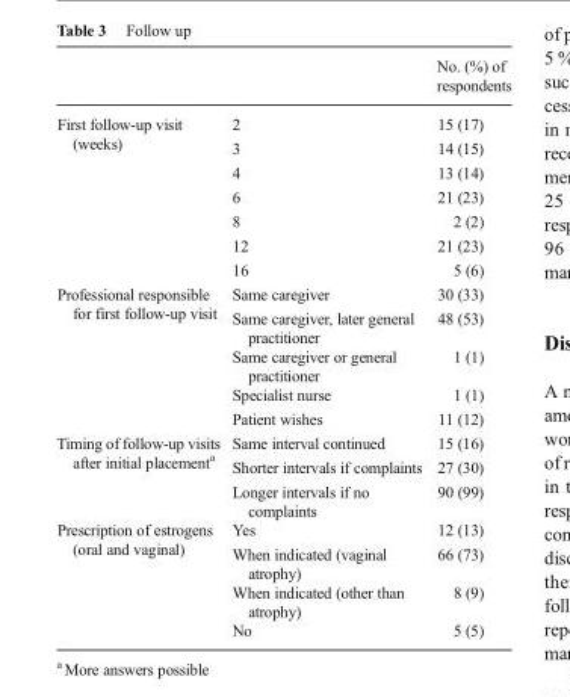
<table><thead><tr><td></td><td></td><td>No. (%) of respondents</td></tr></thead><tbody><tr><td rowspan="7">First follow-up visit (weeks)</td><td>2</td><td>15 (17)</td></tr><tr><td>3</td><td>14 (15)</td></tr><tr><td>4</td><td>13 (14)</td></tr><tr><td>6</td><td>21 (23)</td></tr><tr><td>8</td><td>2 (2)</td></tr><tr><td>12</td><td>21 (23)</td></tr><tr><td>16</td><td>5 (6)</td></tr><tr><td rowspan="5">Professional responsible for first follow-up visit</td><td>Same caregiver</td><td>30 (33)</td></tr><tr><td>Same caregiver, later general practitioner</td><td>48 (53)</td></tr><tr><td>Same caregiver or general practitioner</td><td>1 (1)</td></tr><tr><td>Specialist nurse</td><td>1 (1)</td></tr><tr><td>Patient wishes</td><td>11 (12)</td></tr><tr><td rowspan="3">Timing of follow-up visits after initial placement<sup>a</sup></td><td>Same interval continued</td><td>15 (16)</td></tr><tr><td>Shorter intervals if complaints</td><td>27 (30)</td></tr><tr><td>Longer intervals if no complaints</td><td>90 (99)</td></tr><tr><td rowspan="4">Prescription of estrogens (oral and vaginal)</td><td>Yes</td><td>12 (13)</td></tr><tr><td>When indicated (vaginal atrophy)</td><td>66 (73)</td></tr><tr><td>When indicated (other than atrophy)</td><td>8 (9)</td></tr><tr><td>No</td><td>5 (5)</td></tr></tbody></table>